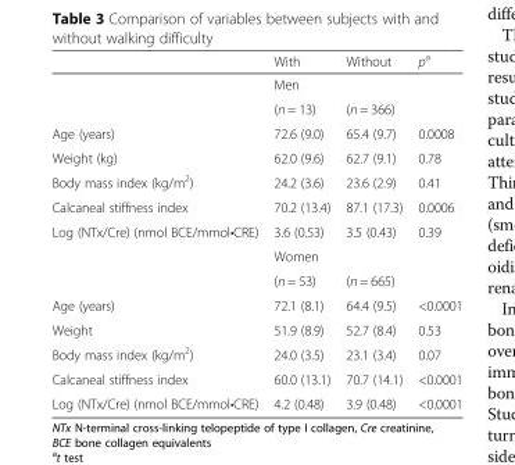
<table><thead><tr><td></td><td>With</td><td>Without</td><td>p<sup>a</sup></td></tr></thead><tbody><tr><td></td><td>Men</td><td></td><td></td></tr><tr><td></td><td>(n = 13)</td><td>(n = 366)</td><td></td></tr><tr><td>Age (years)</td><td>72.6 (9.0)</td><td>65.4 (9.7)</td><td>0.0008</td></tr><tr><td>Weight (kg)</td><td>62.0 (9.6)</td><td>62.7 (9.1)</td><td>0.78</td></tr><tr><td>Body mass index (kg/m<sup>2</sup>)</td><td>24.2 (3.6)</td><td>23.6 (2.9)</td><td>0.41</td></tr><tr><td>Calcaneal stiffness index</td><td>70.2 (13.4)</td><td>87.1 (17.3)</td><td>0.0006</td></tr><tr><td rowspan="3">Log (NTx/Cre) (nmol BCE/mmol•CRE)</td><td>3.6 (0.53)</td><td>3.5 (0.43)</td><td>0.39</td></tr><tr><td>Women</td><td></td><td></td></tr><tr><td>(n = 53)</td><td>(n = 665)</td><td></td></tr><tr><td>Age (years)</td><td>72.1 (8.1)</td><td>64.4 (9.5)</td><td>&lt;0.0001</td></tr><tr><td>Weight</td><td>51.9 (8.9)</td><td>52.7 (8.4)</td><td>0.53</td></tr><tr><td>Body mass index (kg/m<sup>2</sup>)</td><td>24.0 (3.5)</td><td>23.1 (3.4)</td><td>0.07</td></tr><tr><td>Calcaneal stiffness index</td><td>60.0 (13.1)</td><td>70.7 (14.1)</td><td>&lt;0.0001</td></tr><tr><td>Log (NTx/Cre) (nmol BCE/mmol•CRE)</td><td>4.2 (0.48)</td><td>3.9 (0.48)</td><td>&lt;0.0001</td></tr></tbody></table>